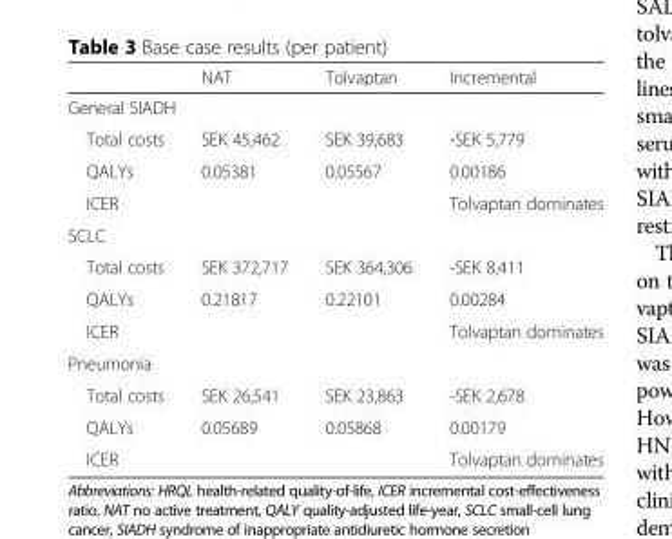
<table><thead><tr><td></td><td>NAT</td><td>Tolvaptan</td><td>Incremental</td></tr></thead><tbody><tr><td colspan="4">General SIADH</td></tr><tr><td>Total costs</td><td>SEK 45,462</td><td>SEK 39,683</td><td>-SEK 5,779</td></tr><tr><td>QALYs</td><td>0.05381</td><td>0.05567</td><td>0.00186</td></tr><tr><td>ICER</td><td></td><td></td><td>Tolvaptan dominates</td></tr><tr><td colspan="4">SCLC</td></tr><tr><td>Total costs</td><td>SEK 372,717</td><td>SEK 364,306</td><td>-SEK 8,411</td></tr><tr><td>QALYs</td><td>0.21817</td><td>0.22101</td><td>0.00284</td></tr><tr><td>ICER</td><td></td><td></td><td>Tolvaptan dominates</td></tr><tr><td colspan="4">Pneumonia</td></tr><tr><td>Total costs</td><td>SEK 26,541</td><td>SEK 23,863</td><td>-SEK 2,678</td></tr><tr><td>QALYs</td><td>0.05689</td><td>0.05868</td><td>0.00179</td></tr><tr><td>ICER</td><td></td><td></td><td>Tolvaptan dominates</td></tr></tbody></table>